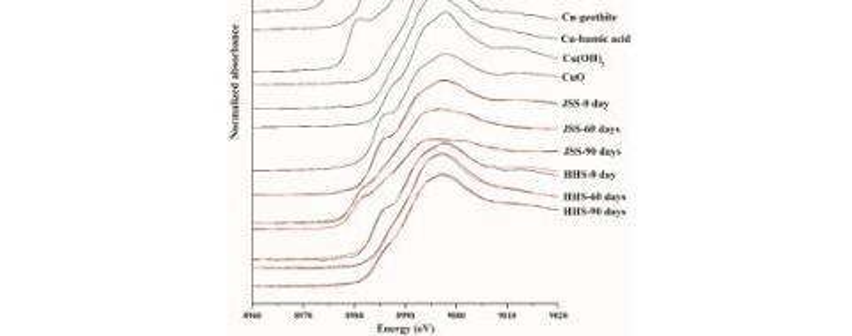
<table><thead><tr><td rowspan="2">Reference Compounds</td><td colspan="6">Percentages of Targeted Components (%)</td></tr><tr><td>JSS-0 Day</td><td>JSS-60 Days</td><td>JSS-90 Days</td><td>HHS-0 Days</td><td>HHS-60 Days</td><td>HHS-90 Days</td></tr></thead><tbody><tr><td>CuO</td><td>69.3</td><td>0.0</td><td>0.0</td><td>88.4</td><td>0.0</td><td>41.9</td></tr><tr><td>Cu-goethite</td><td>15.2</td><td>0.0</td><td>0.0</td><td>24.3</td><td>0.0</td><td>0.0</td></tr><tr><td>CuS</td><td>19.9</td><td>0.0</td><td>0.0</td><td>2.5</td><td>0.0</td><td>0.0</td></tr><tr><td>Cu-humic acid</td><td>0.0</td><td>24.9</td><td>25.6</td><td>0.0</td><td>64.1</td><td>43.7</td></tr><tr><td>Cu(OH)<sub>2</sub></td><td>0.0</td><td>11.1</td><td>0.0</td><td>0.0</td><td>39.9</td><td>19.0</td></tr><tr><td>Cu<sub>2</sub>S</td><td>0.0</td><td>38.7</td><td>40.3</td><td>0.0</td><td>2.6</td><td>0.0</td></tr><tr><td>Cu</td><td>0.0</td><td>27.5</td><td>35.4</td><td>0.0</td><td>0.0</td><td>0.0</td></tr><tr><td>R factor</td><td>0.0002</td><td>0.0001</td><td>0.0001</td><td>0.0005</td><td>0.0006</td><td>0.0003</td></tr></tbody></table>